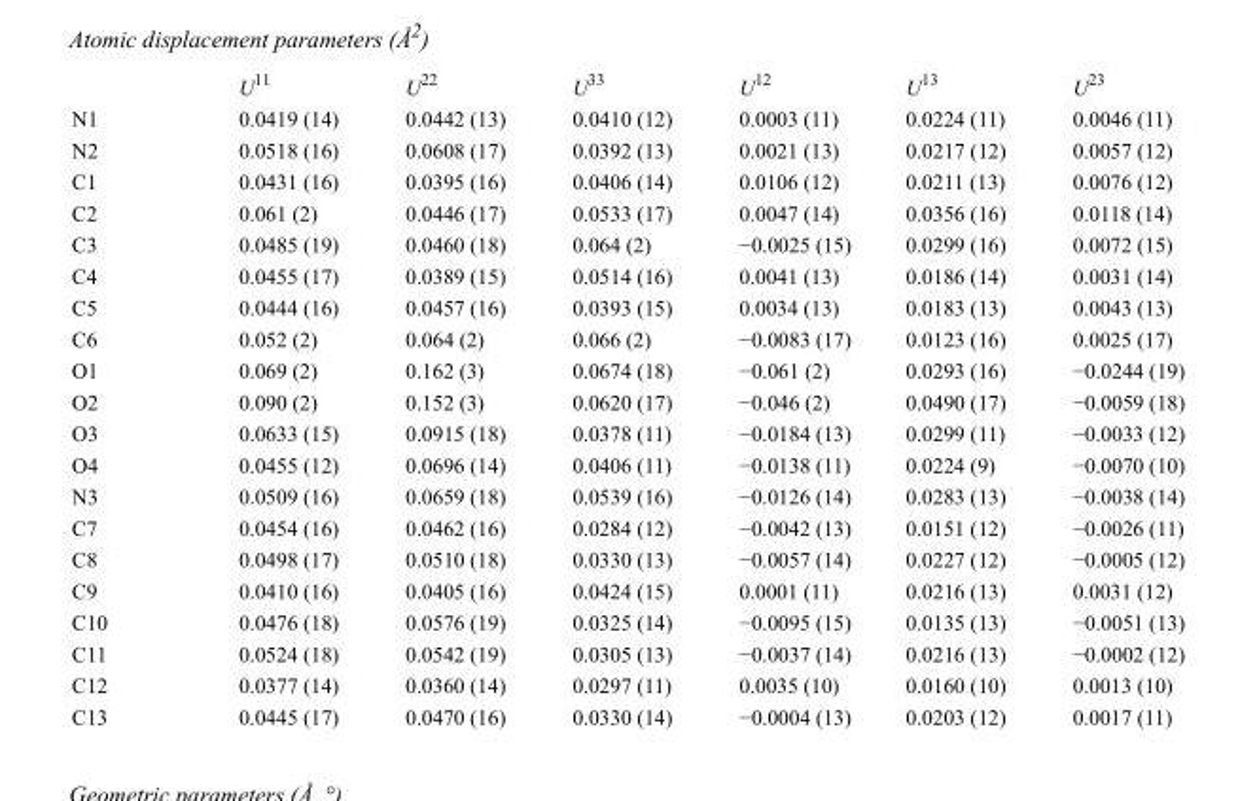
<table><thead><tr><td></td><td>U<sup>11</sup></td><td>U<sup>22</sup></td><td>U<sup>33</sup></td><td>U<sup>12</sup></td><td>U<sup>13</sup></td><td>U<sup>23</sup></td></tr></thead><tbody><tr><td>N1</td><td>0.0419 (14)</td><td>0.0442 (13)</td><td>0.0410 (12)</td><td>0.0003 (11)</td><td>0.0224 (11)</td><td>0.0046 (11)</td></tr><tr><td>N2</td><td>0.0518 (16)</td><td>0.0608 (17)</td><td>0.0392 (13)</td><td>0.0021 (13)</td><td>0.0217 (12)</td><td>0.0057 (12)</td></tr><tr><td>C1</td><td>0.0431 (16)</td><td>0.0395 (16)</td><td>0.0406 (14)</td><td>0.0106 (12)</td><td>0.0211 (13)</td><td>0.0076 (12)</td></tr><tr><td>C2</td><td>0.061 (2)</td><td>0.0446 (17)</td><td>0.0533 (17)</td><td>0.0047 (14)</td><td>0.0356 (16)</td><td>0.0118 (14)</td></tr><tr><td>C3</td><td>0.0485 (19)</td><td>0.0460 (18)</td><td>0.064 (2)</td><td>−0.0025 (15)</td><td>0.0299 (16)</td><td>0.0072 (15)</td></tr><tr><td>C4</td><td>0.0455 (17)</td><td>0.0389 (15)</td><td>0.0514 (16)</td><td>0.0041 (13)</td><td>0.0186 (14)</td><td>0.0031 (14)</td></tr><tr><td>C5</td><td>0.0444 (16)</td><td>0.0457 (16)</td><td>0.0393 (15)</td><td>0.0034 (13)</td><td>0.0183 (13)</td><td>0.0043 (13)</td></tr><tr><td>C6</td><td>0.052 (2)</td><td>0.064 (2)</td><td>0.066 (2)</td><td>−0.0083 (17)</td><td>0.0123 (16)</td><td>0.0025 (17)</td></tr><tr><td>O1</td><td>0.069 (2)</td><td>0.162 (3)</td><td>0.0674 (18)</td><td>−0.061 (2)</td><td>0.0293 (16)</td><td>−0.0244 (19)</td></tr><tr><td>O2</td><td>0.090 (2)</td><td>0.152 (3)</td><td>0.0620 (17)</td><td>−0.046 (2)</td><td>0.0490 (17)</td><td>−0.0059 (18)</td></tr><tr><td>O3</td><td>0.0633 (15)</td><td>0.0915 (18)</td><td>0.0378 (11)</td><td>−0.0184 (13)</td><td>0.0299 (11)</td><td>−0.0033 (12)</td></tr><tr><td>O4</td><td>0.0455 (12)</td><td>0.0696 (14)</td><td>0.0406 (11)</td><td>−0.0138 (11)</td><td>0.0224 (9)</td><td>−0.0070 (10)</td></tr><tr><td>N3</td><td>0.0509 (16)</td><td>0.0659 (18)</td><td>0.0539 (16)</td><td>−0.0126 (14)</td><td>0.0283 (13)</td><td>−0.0038 (14)</td></tr><tr><td>C7</td><td>0.0454 (16)</td><td>0.0462 (16)</td><td>0.0284 (12)</td><td>−0.0042 (13)</td><td>0.0151 (12)</td><td>−0.0026 (11)</td></tr><tr><td>C8</td><td>0.0498 (17)</td><td>0.0510 (18)</td><td>0.0330 (13)</td><td>−0.0057 (14)</td><td>0.0227 (12)</td><td>−0.0005 (12)</td></tr><tr><td>C9</td><td>0.0410 (16)</td><td>0.0405 (16)</td><td>0.0424 (15)</td><td>0.0001 (11)</td><td>0.0216 (13)</td><td>0.0031 (12)</td></tr><tr><td>C10</td><td>0.0476 (18)</td><td>0.0576 (19)</td><td>0.0325 (14)</td><td>−0.0095 (15)</td><td>0.0135 (13)</td><td>−0.0051 (13)</td></tr><tr><td>C11</td><td>0.0524 (18)</td><td>0.0542 (19)</td><td>0.0305 (13)</td><td>−0.0037 (14)</td><td>0.0216 (13)</td><td>−0.0002 (12)</td></tr><tr><td>C12</td><td>0.0377 (14)</td><td>0.0360 (14)</td><td>0.0297 (11)</td><td>0.0035 (10)</td><td>0.0160 (10)</td><td>0.0013 (10)</td></tr><tr><td>C13</td><td>0.0445 (17)</td><td>0.0470 (16)</td><td>0.0330 (14)</td><td>−0.0004 (13)</td><td>0.0203 (12)</td><td>0.0017 (11)</td></tr></tbody></table>